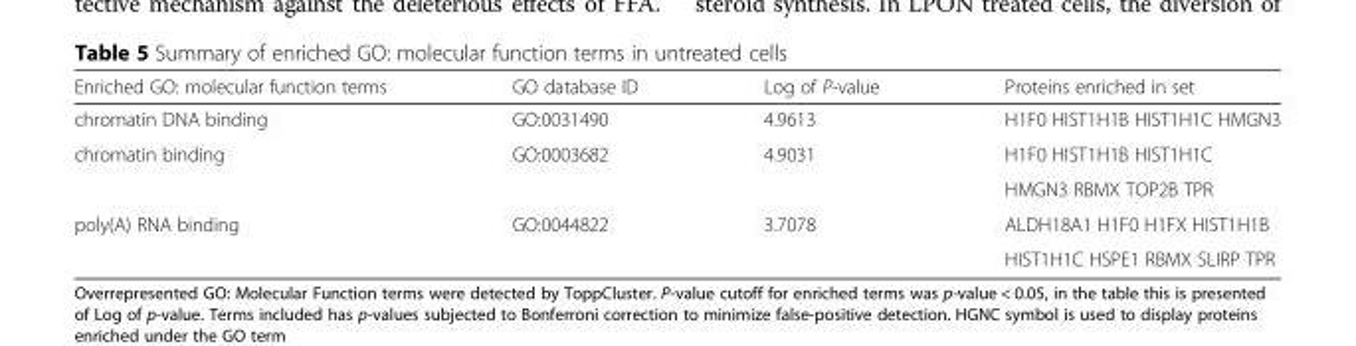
<table><thead><tr><td>Enriched GO: molecular function terms</td><td>GO database ID</td><td>Log of P-value</td><td>Proteins enriched in set</td></tr></thead><tbody><tr><td>chromatin DNA binding</td><td>GO:0031490</td><td>4.9613</td><td>H1F0 HIST1H1B HIST1H1C HMGN3</td></tr><tr><td rowspan="2">chromatin binding</td><td rowspan="2">GO:0003682</td><td rowspan="2">4.9031</td><td>H1F0 HIST1H1B HIST1H1C</td></tr><tr><td>HMGN3 RBMX TOP2B TPR</td></tr><tr><td rowspan="2">poly(A) RNA binding</td><td rowspan="2">GO:0044822</td><td rowspan="2">3.7078</td><td>ALDH18A1 H1F0 H1FX HIST1H1B</td></tr><tr><td>HIST1H1C HSPE1 RBMX SLIRP TPR</td></tr></tbody></table>